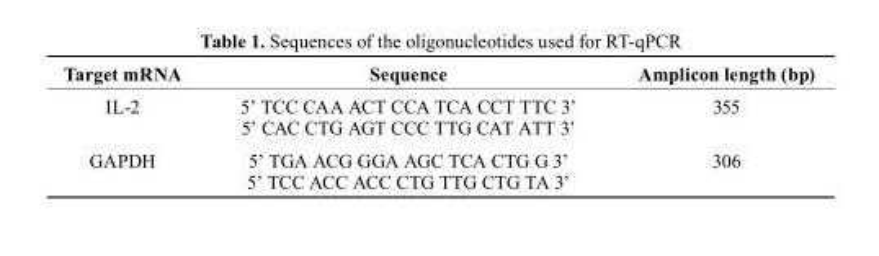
<table><thead><tr><td>target mrNA</td><td>sequence</td><td>Amplicon length (bp)</td></tr></thead><tbody><tr><td>IL-2</td><td>5’ TCC CAA ACT CCA TCA CCT TTC 3’ 5’ CAC CTG AGT CCC TTG CAT ATT 3’</td><td>355</td></tr><tr><td>GAPDH</td><td>5’ TGA ACG GGA AGC TCA CTG G 3’ 5’ TCC ACC ACC CTG TTG CTG TA 3’</td><td>306</td></tr></tbody></table>